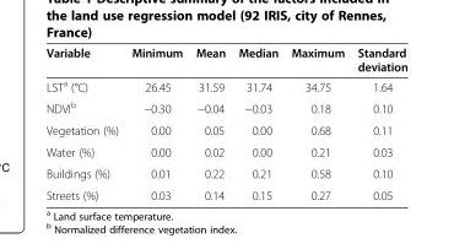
<table><thead><tr><td>Variable</td><td>Minimum</td><td>Mean</td><td>Median</td><td>Maximum</td><td>Standard deviation</td></tr></thead><tbody><tr><td>LST<sup>a</sup> (°C)</td><td>26.45</td><td>31.59</td><td>31.74</td><td>34.75</td><td>1.64</td></tr><tr><td>NDVI<sup>b</sup></td><td>−0.30</td><td>−0.04</td><td>−0.03</td><td>0.18</td><td>0.10</td></tr><tr><td>Vegetation (%)</td><td>0.00</td><td>0.05</td><td>0.00</td><td>0.68</td><td>0.11</td></tr><tr><td>Water (%)</td><td>0.00</td><td>0.02</td><td>0.00</td><td>0.21</td><td>0.03</td></tr><tr><td>Buildings (%)</td><td>0.01</td><td>0.22</td><td>0.21</td><td>0.58</td><td>0.10</td></tr><tr><td>Streets (%)</td><td>0.03</td><td>0.14</td><td>0.15</td><td>0.27</td><td>0.05</td></tr></tbody></table>